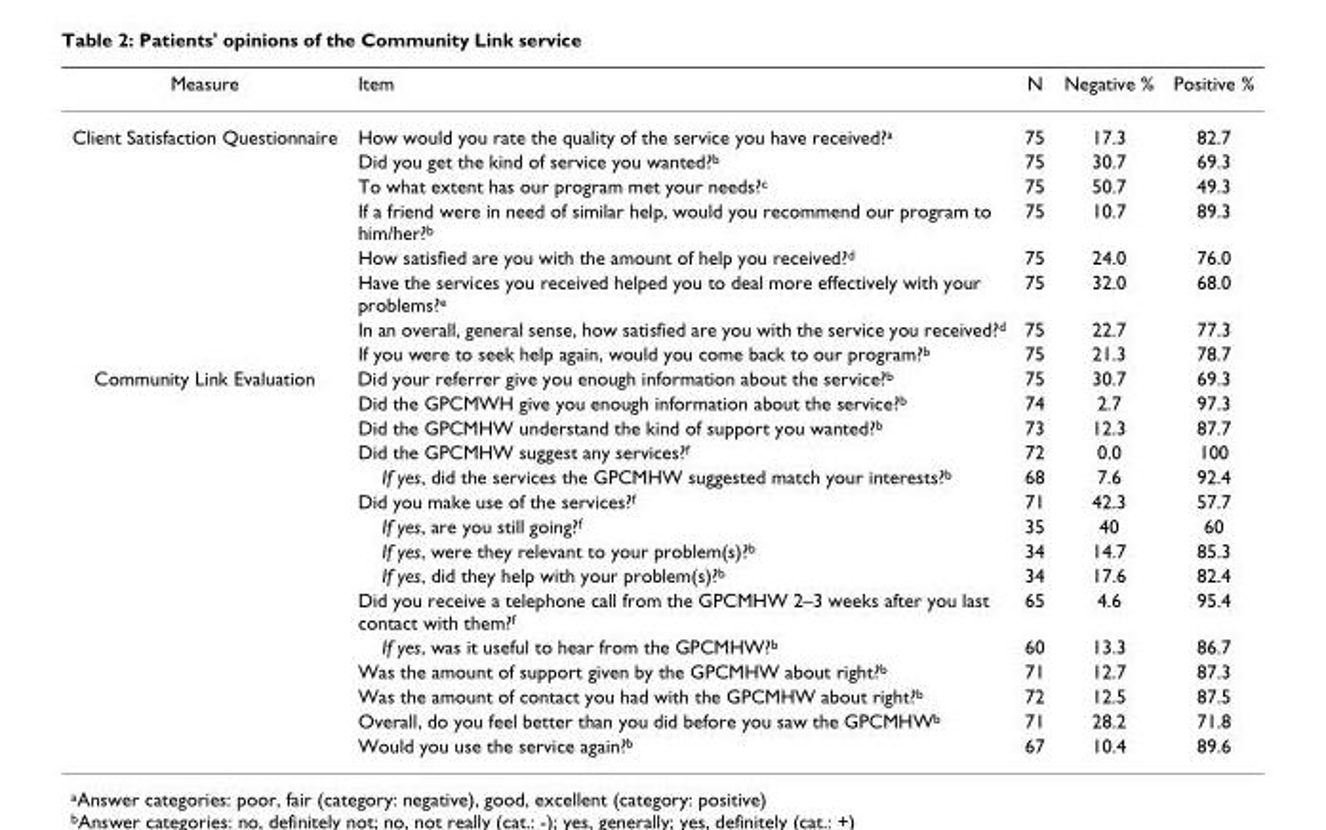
<table><thead><tr><td>Measure</td><td>Item</td><td>N</td><td>Negative %</td><td>Positive %</td></tr></thead><tbody><tr><td rowspan="8">Client Satisfaction Questionnaire</td><td>How would you rate the quality of the service you have received?<sup>a</sup></td><td>75</td><td>17.3</td><td>82.7</td></tr><tr><td>Did you get the kind of service you wanted?<sup>b</sup></td><td>75</td><td>30.7</td><td>69.3</td></tr><tr><td>To what extent has our program met your needs?<sup>c</sup></td><td>75</td><td>50.7</td><td>49.3</td></tr><tr><td>If a friend were in need of similar help, would you recommend our program to him/her?<sup>b</sup></td><td>75</td><td>10.7</td><td>89.3</td></tr><tr><td>How satisfied are you with the amount of help you received?<sup>d</sup></td><td>75</td><td>24.0</td><td>76.0</td></tr><tr><td>Have the services you received helped you to deal more effectively with your problems?<sup>e</sup></td><td>75</td><td>32.0</td><td>68.0</td></tr><tr><td>In an overall, general sense, how satisfied are you with the service you received?<sup>d</sup></td><td>75</td><td>22.7</td><td>77.3</td></tr><tr><td>If you were to seek help again, would you come back to our program?<sup>b</sup></td><td>75</td><td>21.3</td><td>78.7</td></tr><tr><td rowspan="15">Community Link Evaluation</td><td>Did your referrer give you enough information about the service?<sup>b</sup></td><td>75</td><td>30.7</td><td>69.3</td></tr><tr><td>Did the GPCMWH give you enough information about the service?<sup>b</sup></td><td>74</td><td>2.7</td><td>97.3</td></tr><tr><td>Did the GPCMHW understand the kind of support you wanted?<sup>b</sup></td><td>73</td><td>12.3</td><td>87.7</td></tr><tr><td>Did the GPCMHW suggest any services?<sup>f</sup></td><td>72</td><td>0.0</td><td>100</td></tr><tr><td>If yes, did the services the GPCMHW suggested match your interests?<sup>b</sup></td><td>68</td><td>7.6</td><td>92.4</td></tr><tr><td>Did you make use of the services?<sup>f</sup></td><td>71</td><td>42.3</td><td>57.7</td></tr><tr><td>If yes, are you still going?<sup>f</sup></td><td>35</td><td>40</td><td>60</td></tr><tr><td>If yes, were they relevant to your problem(s)?<sup>b</sup></td><td>34</td><td>14.7</td><td>85.3</td></tr><tr><td>If yes, did they help with your problem(s)?<sup>b</sup></td><td>34</td><td>17.6</td><td>82.4</td></tr><tr><td>Did you receive a telephone call from the GPCMHW 2–3 weeks after you last contact with them?<sup>f</sup></td><td>65</td><td>4.6</td><td>95.4</td></tr><tr><td>If yes, was it useful to hear from the GPCMHW?<sup>b</sup></td><td>60</td><td>13.3</td><td>86.7</td></tr><tr><td>Was the amount of support given by the GPCMHW about right?<sup>b</sup></td><td>71</td><td>12.7</td><td>87.3</td></tr><tr><td>Was the amount of contact you had with the GPCMHW about right?<sup>b</sup></td><td>72</td><td>12.5</td><td>87.5</td></tr><tr><td>Overall, do you feel better than you did before you saw the GPCMHW<sup>b</sup></td><td>71</td><td>28.2</td><td>71.8</td></tr><tr><td>Would you use the service again?<sup>b</sup></td><td>67</td><td>10.4</td><td>89.6</td></tr></tbody></table>